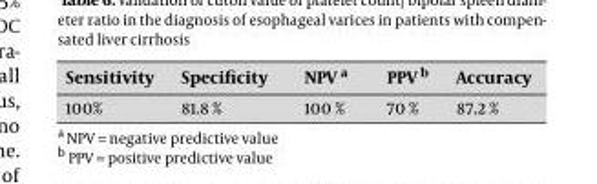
<table><thead><tr><td>Sensitivity</td><td>Specificity</td><td>NPV a</td><td>PPV b</td><td>Accuracy</td></tr></thead><tbody><tr><td>100%</td><td>81.8 %</td><td>100 %</td><td>70 %</td><td>87.2 %</td></tr></tbody></table>